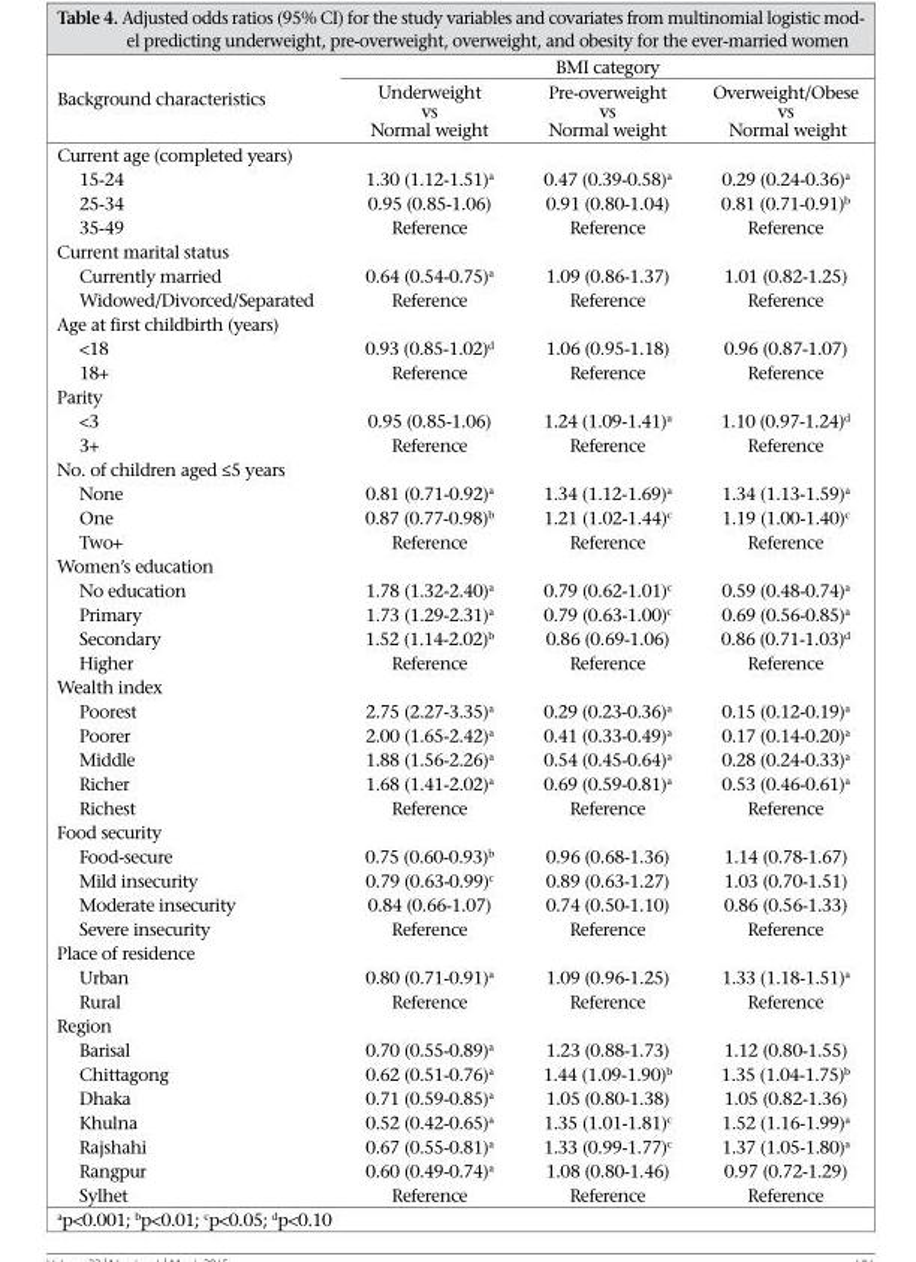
<table><thead><tr><td rowspan="2">Background characteristics</td><td colspan="3">BMI category</td></tr><tr><td>Underweight vs Normal weight</td><td>Pre-overweight vs Normal weight</td><td>Overweight/Obese vs Normal weight</td></tr></thead><tbody><tr><td colspan="4">Current age (completed years)</td></tr><tr><td>15-24</td><td>1.30 (1.12-1.51)<sup>a</sup></td><td>0.47 (0.39-0.58)<sup>a</sup></td><td>0.29 (0.24-0.36)<sup>a</sup></td></tr><tr><td>25-34</td><td>0.95 (0.85-1.06)</td><td>0.91 (0.80-1.04)</td><td>0.81 (0.71-0.91)<sup>b</sup></td></tr><tr><td>35-49</td><td>Reference</td><td>Reference</td><td>Reference</td></tr><tr><td colspan="4">Current marital status</td></tr><tr><td>Currently married</td><td>0.64 (0.54-0.75)<sup>a</sup></td><td>1.09 (0.86-1.37)</td><td>1.01 (0.82-1.25)</td></tr><tr><td>Widowed/Divorced/Separated</td><td>Reference</td><td>Reference</td><td>Reference</td></tr><tr><td colspan="4">Age at first childbirth (years)</td></tr><tr><td>&lt;18</td><td>0.93 (0.85-1.02)<sup>d</sup></td><td>1.06 (0.95-1.18)</td><td>0.96 (0.87-1.07)</td></tr><tr><td>18+</td><td>Reference</td><td>Reference</td><td>Reference</td></tr><tr><td colspan="4">Parity</td></tr><tr><td>&lt;3</td><td>0.95 (0.85-1.06)</td><td>1.24 (1.09-1.41)<sup>a</sup></td><td>1.10 (0.97-1.24)<sup>d</sup></td></tr><tr><td>3+</td><td>Reference</td><td>Reference</td><td>Reference</td></tr><tr><td colspan="4">No. of children aged ≤5 years</td></tr><tr><td>None</td><td>0.81 (0.71-0.92)<sup>a</sup></td><td>1.34 (1.12-1.69)<sup>a</sup></td><td>1.34 (1.13-1.59)<sup>a</sup></td></tr><tr><td>One</td><td>0.87 (0.77-0.98)<sup>b</sup></td><td>1.21 (1.02-1.44)<sup>c</sup></td><td>1.19 (1.00-1.40)<sup>c</sup></td></tr><tr><td>Two+</td><td>Reference</td><td>Reference</td><td>Reference</td></tr><tr><td colspan="4">Women’s education</td></tr><tr><td>No education</td><td>1.78 (1.32-2.40)<sup>a</sup></td><td>0.79 (0.62-1.01)<sup>c</sup></td><td>0.59 (0.48-0.74)<sup>a</sup></td></tr><tr><td>Primary</td><td>1.73 (1.29-2.31)<sup>a</sup></td><td>0.79 (0.63-1.00)<sup>c</sup></td><td>0.69 (0.56-0.85)<sup>a</sup></td></tr><tr><td>Secondary</td><td>1.52 (1.14-2.02)<sup>b</sup></td><td>0.86 (0.69-1.06)</td><td>0.86 (0.71-1.03)<sup>d</sup></td></tr><tr><td>Higher</td><td>Reference</td><td>Reference</td><td>Reference</td></tr><tr><td colspan="4">Wealth index</td></tr><tr><td>Poorest</td><td>2.75 (2.27-3.35)<sup>a</sup></td><td>0.29 (0.23-0.36)<sup>a</sup></td><td>0.15 (0.12-0.19)<sup>a</sup></td></tr><tr><td>Poorer</td><td>2.00 (1.65-2.42)<sup>a</sup></td><td>0.41 (0.33-0.49)<sup>a</sup></td><td>0.17 (0.14-0.20)<sup>a</sup></td></tr><tr><td>Middle</td><td>1.88 (1.56-2.26)<sup>a</sup></td><td>0.54 (0.45-0.64)<sup>a</sup></td><td>0.28 (0.24-0.33)<sup>a</sup></td></tr><tr><td>Richer</td><td>1.68 (1.41-2.02)<sup>a</sup></td><td>0.69 (0.59-0.81)<sup>a</sup></td><td>0.53 (0.46-0.61)<sup>a</sup></td></tr><tr><td>Richest</td><td>Reference</td><td>Reference</td><td>Reference</td></tr><tr><td colspan="4">Food security</td></tr><tr><td>Food-secure</td><td>0.75 (0.60-0.93)<sup>b</sup></td><td>0.96 (0.68-1.36)</td><td>1.14 (0.78-1.67)</td></tr><tr><td>Mild insecurity</td><td>0.79 (0.63-0.99)<sup>c</sup></td><td>0.89 (0.63-1.27)</td><td>1.03 (0.70-1.51)</td></tr><tr><td>Moderate insecurity</td><td>0.84 (0.66-1.07)</td><td>0.74 (0.50-1.10)</td><td>0.86 (0.56-1.33)</td></tr><tr><td>Severe insecurity</td><td>Reference</td><td>Reference</td><td>Reference</td></tr><tr><td colspan="4">Place of residence</td></tr><tr><td>Urban</td><td>0.80 (0.71-0.91)<sup>a</sup></td><td>1.09 (0.96-1.25)</td><td>1.33 (1.18-1.51)<sup>a</sup></td></tr><tr><td>Rural</td><td>Reference</td><td>Reference</td><td>Reference</td></tr><tr><td colspan="4">Region</td></tr><tr><td>Barisal</td><td>0.70 (0.55-0.89)<sup>a</sup></td><td>1.23 (0.88-1.73)</td><td>1.12 (0.80-1.55)</td></tr><tr><td>Chittagong</td><td>0.62 (0.51-0.76)<sup>a</sup></td><td>1.44 (1.09-1.90)<sup>b</sup></td><td>1.35 (1.04-1.75)<sup>b</sup></td></tr><tr><td>Dhaka</td><td>0.71 (0.59-0.85)<sup>a</sup></td><td>1.05 (0.80-1.38)</td><td>1.05 (0.82-1.36)</td></tr><tr><td>Khulna</td><td>0.52 (0.42-0.65)<sup>a</sup></td><td>1.35 (1.01-1.81)<sup>c</sup></td><td>1.52 (1.16-1.99)<sup>a</sup></td></tr><tr><td>Rajshahi</td><td>0.67 (0.55-0.81)<sup>a</sup></td><td>1.33 (0.99-1.77)<sup>c</sup></td><td>1.37 (1.05-1.80)<sup>a</sup></td></tr><tr><td>Rangpur</td><td>0.60 (0.49-0.74)<sup>a</sup></td><td>1.08 (0.80-1.46)</td><td>0.97 (0.72-1.29)</td></tr><tr><td>Sylhet</td><td>Reference</td><td>Reference</td><td>Reference</td></tr></tbody></table>